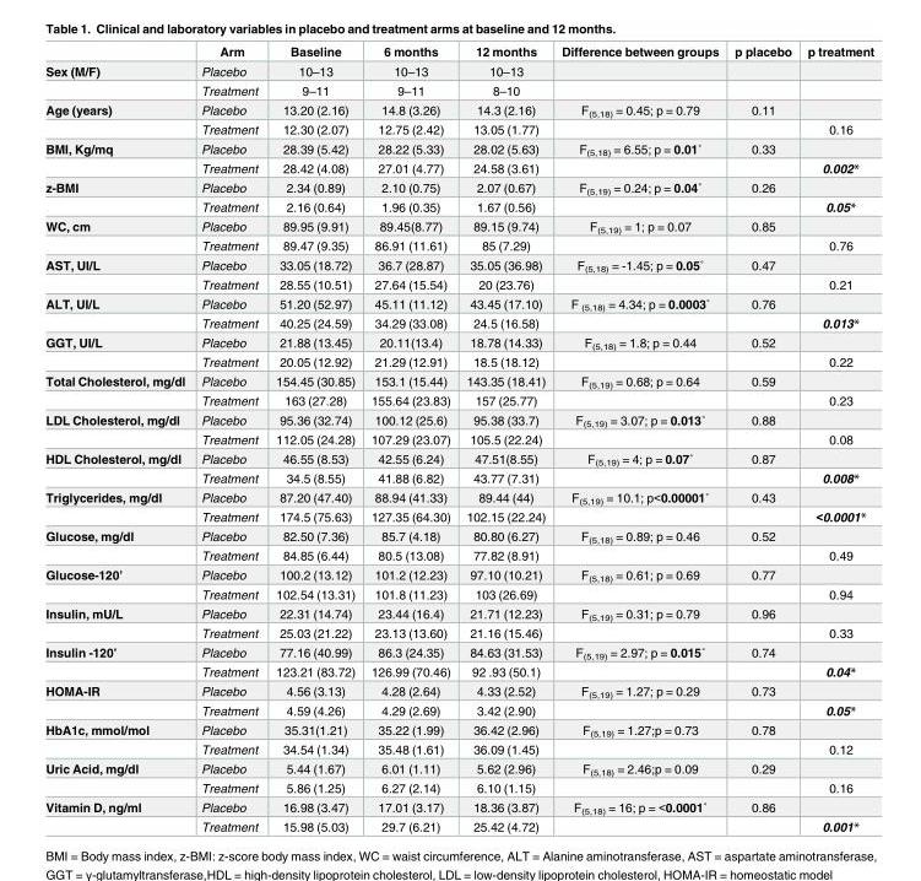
<table><thead><tr><td></td><td>Arm</td><td>Baseline</td><td>6 months</td><td>12 months</td><td>Difference between groups</td><td>p placebo</td><td>p treatment</td></tr></thead><tbody><tr><td rowspan="2">Sex (M/F)</td><td>Placebo</td><td>10–13</td><td>10–13</td><td>10–13</td><td></td><td></td><td></td></tr><tr><td>Treatment</td><td>9–11</td><td>9–11</td><td>8–10</td><td></td><td></td><td></td></tr><tr><td rowspan="2">Age (years)</td><td>Placebo</td><td>13.20 (2.16)</td><td>14.8 (3.26)</td><td>14.3 (2.16)</td><td>F<sub>(5,18)</sub> = 0.45; p = 0.79</td><td>0.11</td><td></td></tr><tr><td>Treatment</td><td>12.30 (2.07)</td><td>12.75 (2.42)</td><td>13.05 (1.77)</td><td></td><td></td><td>0.16</td></tr><tr><td rowspan="2">BMI, Kg/mq</td><td>Placebo</td><td>28.39 (5.42)</td><td>28.22 (5.33)</td><td>28.02 (5.63)</td><td>F(5,18) = 6.55; p = 0.01˚</td><td>0.33</td><td></td></tr><tr><td>Treatment</td><td>28.42 (4.08)</td><td>27.01 (4.77)</td><td>24.58 (3.61)</td><td></td><td></td><td>0.002*</td></tr><tr><td rowspan="2">z-BMI</td><td>Placebo</td><td>2.34 (0.89)</td><td>2.10 (0.75)</td><td>2.07 (0.67)</td><td>F(5,19) = 0.24; p = 0.04˚</td><td>0.26</td><td></td></tr><tr><td>Treatment</td><td>2.16 (0.64)</td><td>1.96 (0.35)</td><td>1.67 (0.56)</td><td></td><td></td><td>0.05*</td></tr><tr><td rowspan="2">WC, cm</td><td>Placebo</td><td>89.95 (9.91)</td><td>89.45(8.77)</td><td>89.15 (9.74)</td><td>F<sub>(5,19)</sub> = 1; p = 0.07</td><td>0.85</td><td></td></tr><tr><td>Treatment</td><td>89.47 (9.35)</td><td>86.91 (11.61)</td><td>85 (7.29)</td><td></td><td></td><td>0.76</td></tr><tr><td rowspan="2">AST, UI/L</td><td>Placebo</td><td>33.05 (18.72)</td><td>36.7 (28.87)</td><td>35.05 (36.98)</td><td>F(5,18) = -1.45; p = 0.05˚</td><td>0.47</td><td></td></tr><tr><td>Treatment</td><td>28.55 (10.51)</td><td>27.64 (15.54)</td><td>20 (23.76)</td><td></td><td></td><td>0.21</td></tr><tr><td rowspan="2">ALT, UI/L</td><td>Placebo</td><td>51.20 (52.97)</td><td>45.11 (11.12)</td><td>43.45 (17.10)</td><td>F (5,18) = 4.34; p = 0.0003˚</td><td>0.76</td><td></td></tr><tr><td>Treatment</td><td>40.25 (24.59)</td><td>34.29 (33.08)</td><td>24.5 (16.58)</td><td></td><td></td><td>0.013*</td></tr><tr><td rowspan="2">GGT, UI/L</td><td>Placebo</td><td>21.88 (13.45)</td><td>20.11(13.4)</td><td>18.78 (14.33)</td><td>F<sub>(5,18)</sub> = 1.8; p = 0.44</td><td>0.52</td><td></td></tr><tr><td>Treatment</td><td>20.05 (12.92)</td><td>21.29 (12.91)</td><td>18.5 (18.12)</td><td></td><td></td><td>0.22</td></tr><tr><td rowspan="2">Total Cholesterol, mg/dl</td><td>Placebo</td><td>154.45 (30.85)</td><td>153.1 (15.44)</td><td>143.35 (18.41)</td><td>F<sub>(5,19)</sub> = 0.68; p = 0.64</td><td>0.59</td><td></td></tr><tr><td>Treatment</td><td>163 (27.28)</td><td>155.64 (23.83)</td><td>157 (25.77)</td><td></td><td></td><td>0.23</td></tr><tr><td rowspan="2">LDL Cholesterol, mg/dl</td><td>Placebo</td><td>95.36 (32.74)</td><td>100.12 (25.6)</td><td>95.38 (33.7)</td><td>F(5,19) = 3.07; p = 0.013˚</td><td>0.88</td><td></td></tr><tr><td>Treatment</td><td>112.05 (24.28)</td><td>107.29 (23.07)</td><td>105.5 (22.24)</td><td></td><td></td><td>0.08</td></tr><tr><td rowspan="2">HDL Cholesterol, mg/dl</td><td>Placebo</td><td>46.55 (8.53)</td><td>42.55 (6.24)</td><td>47.51(8.55)</td><td>F(5,19) = 4; p = 0.07˚</td><td>0.87</td><td></td></tr><tr><td>Treatment</td><td>34.5 (8.55)</td><td>41.88 (6.82)</td><td>43.77 (7.31)</td><td></td><td></td><td>0.008*</td></tr><tr><td rowspan="2">Triglycerides, mg/dl</td><td>Placebo</td><td>87.20 (47.40)</td><td>88.94 (41.33)</td><td>89.44 (44)</td><td>F(5,19) = 10.1; p&lt;0.00001˚</td><td>0.43</td><td></td></tr><tr><td>Treatment</td><td>174.5 (75.63)</td><td>127.35 (64.30)</td><td>102.15 (22.24)</td><td></td><td></td><td>&lt;0.0001*</td></tr><tr><td rowspan="2">Glucose, mg/dl</td><td>Placebo</td><td>82.50 (7.36)</td><td>85.7 (4.18)</td><td>80.80 (6.27)</td><td>F<sub>(5,18)</sub> = 0.89; p = 0.46</td><td>0.52</td><td></td></tr><tr><td>Treatment</td><td>84.85 (6.44)</td><td>80.5 (13.08)</td><td>77.82 (8.91)</td><td></td><td></td><td>0.49</td></tr><tr><td rowspan="2">Glucose-120’</td><td>Placebo</td><td>100.2 (13.12)</td><td>101.2 (12.23)</td><td>97.10 (10.21)</td><td>F<sub>(5,18)</sub> = 0.61; p = 0.69</td><td>0.77</td><td></td></tr><tr><td>Treatment</td><td>102.54 (13.31)</td><td>101.8 (11.23)</td><td>103 (26.69)</td><td></td><td></td><td>0.94</td></tr><tr><td rowspan="2">Insulin, mU/L</td><td>Placebo</td><td>22.31 (14.74)</td><td>23.44 (16.4)</td><td>21.71 (12.23)</td><td>F<sub>(5,19)</sub> = 0.31; p = 0.79</td><td>0.96</td><td></td></tr><tr><td>Treatment</td><td>25.03 (21.22)</td><td>23.13 (13.60)</td><td>21.16 (15.46)</td><td></td><td></td><td>0.33</td></tr><tr><td rowspan="2">Insulin -120’</td><td>Placebo</td><td>77.16 (40.99)</td><td>86.3 (24.35)</td><td>84.63 (31.53)</td><td>F(5,19) = 2.97; p = 0.015˚</td><td>0.74</td><td></td></tr><tr><td>Treatment</td><td>123.21 (83.72)</td><td>126.99 (70.46)</td><td>92 .93 (50.1)</td><td></td><td></td><td>0.04*</td></tr><tr><td rowspan="2">HOMA-IR</td><td>Placebo</td><td>4.56 (3.13)</td><td>4.28 (2.64)</td><td>4.33 (2.52)</td><td>F<sub>(5,19)</sub> = 1.27; p = 0.29</td><td>0.73</td><td></td></tr><tr><td>Treatment</td><td>4.59 (4.26)</td><td>4.29 (2.69)</td><td>3.42 (2.90)</td><td></td><td></td><td>0.05*</td></tr><tr><td rowspan="2">HbA1c, mmol/mol</td><td>Placebo</td><td>35.31(1.21)</td><td>35.22 (1.99)</td><td>36.42 (2.96)</td><td>F<sub>(5,19)</sub> = 1.27;p = 0.73</td><td>0.78</td><td></td></tr><tr><td>Treatment</td><td>34.54 (1.34)</td><td>35.48 (1.61)</td><td>36.09 (1.45)</td><td></td><td></td><td>0.12</td></tr><tr><td rowspan="2">Uric Acid, mg/dl</td><td>Placebo</td><td>5.44 (1.67)</td><td>6.01 (1.11)</td><td>5.62 (2.96)</td><td>F<sub>(5,18)</sub> = 2.46;p = 0.09</td><td>0.29</td><td></td></tr><tr><td>Treatment</td><td>5.86 (1.25)</td><td>6.27 (2.14)</td><td>6.10 (1.15)</td><td></td><td></td><td>0.16</td></tr><tr><td rowspan="2">Vitamin D, ng/ml</td><td>Placebo</td><td>16.98 (3.47)</td><td>17.01 (3.17)</td><td>18.36 (3.87)</td><td>F(5,18) = 16; p = &lt;0.0001˚</td><td>0.86</td><td></td></tr><tr><td>Treatment</td><td>15.98 (5.03)</td><td>29.7 (6.21)</td><td>25.42 (4.72)</td><td></td><td></td><td>0.001*</td></tr></tbody></table>